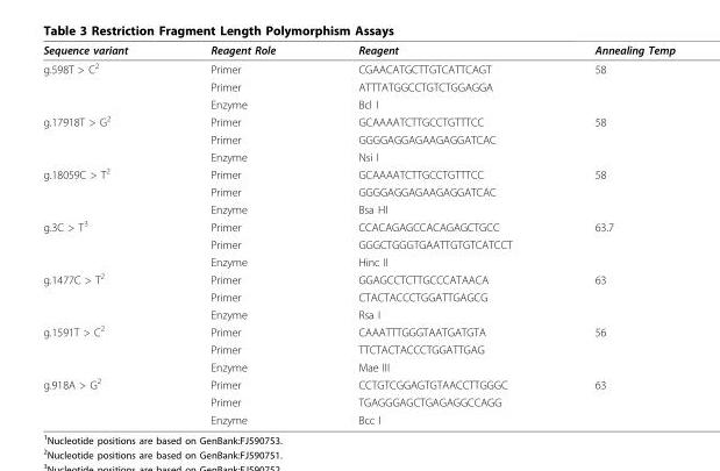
<table><thead><tr><td>Sequence variant</td><td>Reagent Role</td><td>Reagent</td><td>Annealing Temp</td></tr></thead><tbody><tr><td rowspan="3">g.598T &gt; C<sup>2</sup></td><td>Primer</td><td>CGAACATGCTTGTCATTCAGT</td><td>58</td></tr><tr><td>Primer</td><td>ATTTATGGCCTGTCTGGAGGA</td><td></td></tr><tr><td>Enzyme</td><td>Bcl I</td><td></td></tr><tr><td rowspan="3">g.17918T &gt; G<sup>2</sup></td><td>Primer</td><td>GCAAAATCTTGCCTGTTTCC</td><td>58</td></tr><tr><td>Primer</td><td>GGGGAGGAGAAGAGGATCAC</td><td></td></tr><tr><td>Enzyme</td><td>Nsi I</td><td></td></tr><tr><td rowspan="3">g.18059C &gt; T<sup>2</sup></td><td>Primer</td><td>GCAAAATCTTGCCTGTTTCC</td><td>58</td></tr><tr><td>Primer</td><td>GGGGAGGAGAAGAGGATCAC</td><td></td></tr><tr><td>Enzyme</td><td>Bsa HI</td><td></td></tr><tr><td rowspan="3">g.3C &gt; T<sup>3</sup></td><td>Primer</td><td>CCACAGAGCCACAGAGCTGCC</td><td>63.7</td></tr><tr><td>Primer</td><td>GGGCTGGGTGAATTGTGTCATCCT</td><td></td></tr><tr><td>Enzyme</td><td>Hinc II</td><td></td></tr><tr><td rowspan="3">g.1477C &gt; T<sup>2</sup></td><td>Primer</td><td>GGAGCCTCTTGCCCATAACA</td><td>63</td></tr><tr><td>Primer</td><td>CTACTACCCTGGATTGAGCG</td><td></td></tr><tr><td>Enzyme</td><td>Rsa I</td><td></td></tr><tr><td rowspan="3">g.1591T &gt; C<sup>2</sup></td><td>Primer</td><td>CAAATTTGGGTAATGATGTA</td><td>56</td></tr><tr><td>Primer</td><td>TTCTACTACCCTGGATTGAG</td><td></td></tr><tr><td>Enzyme</td><td>Mae III</td><td></td></tr><tr><td rowspan="3">g.918A &gt; G<sup>2</sup></td><td>Primer</td><td>CCTGTCGGAGTGTAACCTTGGGC</td><td>63</td></tr><tr><td>Primer</td><td>TGAGGGAGCTGAGAGGCCAGG</td><td></td></tr><tr><td>Enzyme</td><td>Bcc I</td><td></td></tr></tbody></table>